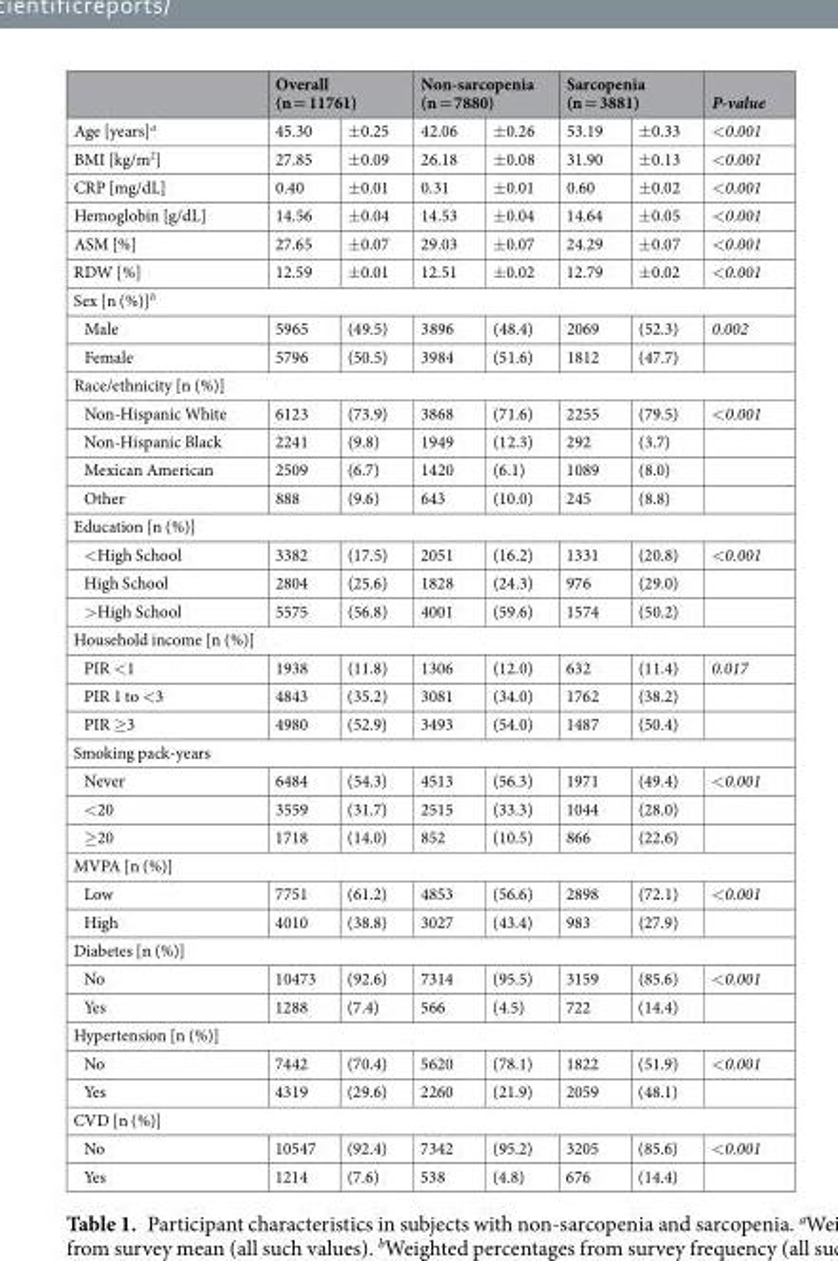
<table><thead><tr><td rowspan="2">Age [years]<sup>a</sup></td><td colspan="2">Overall (n = 11761)</td><td colspan="2">Non-sarcopenia (n = 7880)</td><td colspan="2">Sarcopenia (n = 3881)</td><td rowspan="2">P-value &lt;0.001</td></tr><tr><td>45.30</td><td>±0.25</td><td>42.06</td><td>±0.26</td><td>53.19</td><td>±0.33</td></tr></thead><tbody><tr><td>BMI [kg/m<sup>2</sup>]</td><td>27.85</td><td>±0.09</td><td>26.18</td><td>±0.08</td><td>31.90</td><td>±0.13</td><td>&lt;0.001</td></tr><tr><td>CRP [mg/dL]</td><td>0.40</td><td>±0.01</td><td>0.31</td><td>±0.01</td><td>0.60</td><td>±0.02</td><td>&lt;0.001</td></tr><tr><td>Hemoglobin [g/dL]</td><td>14.56</td><td>±0.04</td><td>14.53</td><td>±0.04</td><td>14.64</td><td>±0.05</td><td>&lt;0.001</td></tr><tr><td>ASM [%]</td><td>27.65</td><td>±0.07</td><td>29.03</td><td>±0.07</td><td>24.29</td><td>±0.07</td><td>&lt;0.001</td></tr><tr><td>RDW [%]</td><td>12.59</td><td>±0.01</td><td>12.51</td><td>±0.02</td><td>12.79</td><td>±0.02</td><td>&lt;0.001</td></tr><tr><td colspan="8">Sex [n (%)]<sup>b</sup></td></tr><tr><td>Male</td><td>5965</td><td>(49.5)</td><td>3896</td><td>(48.4)</td><td>2069</td><td>(52.3)</td><td>0.002</td></tr><tr><td>Female</td><td>5796</td><td>(50.5)</td><td>3984</td><td>(51.6)</td><td>1812</td><td>(47.7)</td><td></td></tr><tr><td colspan="8">Race/ethnicity [n (%)]</td></tr><tr><td>Non-Hispanic White</td><td>6123</td><td>(73.9)</td><td>3868</td><td>(71.6)</td><td>2255</td><td>(79.5)</td><td>&lt;0.001</td></tr><tr><td>Non-Hispanic Black</td><td>2241</td><td>(9.8)</td><td>1949</td><td>(12.3)</td><td>292</td><td>(3.7)</td><td></td></tr><tr><td>Mexican American</td><td>2509</td><td>(6.7)</td><td>1420</td><td>(6.1)</td><td>1089</td><td>(8.0)</td><td></td></tr><tr><td>Other</td><td>888</td><td>(9.6)</td><td>643</td><td>(10.0)</td><td>245</td><td>(8.8)</td><td></td></tr><tr><td colspan="8">Education [n (%)]</td></tr><tr><td>&lt;High School</td><td>3382</td><td>(17.5)</td><td>2051</td><td>(16.2)</td><td>1331</td><td>(20.8)</td><td>&lt;0.001</td></tr><tr><td>High School</td><td>2804</td><td>(25.6)</td><td>1828</td><td>(24.3)</td><td>976</td><td>(29.0)</td><td></td></tr><tr><td>&gt;High School</td><td>5575</td><td>(56.8)</td><td>4001</td><td>(59.6)</td><td>1574</td><td>(50.2)</td><td></td></tr><tr><td colspan="8">Household income [n (%)]</td></tr><tr><td>PIR &lt;1</td><td>1938</td><td>(11.8)</td><td>1306</td><td>(12.0)</td><td>632</td><td>(11.4)</td><td>0.017</td></tr><tr><td>PIR 1 to &lt;3</td><td>4843</td><td>(35.2)</td><td>3081</td><td>(34.0)</td><td>1762</td><td>(38.2)</td><td></td></tr><tr><td>PIR ≥3</td><td>4980</td><td>(52.9)</td><td>3493</td><td>(54.0)</td><td>1487</td><td>(50.4)</td><td></td></tr><tr><td colspan="8">Smoking pack-years</td></tr><tr><td>Never</td><td>6484</td><td>(54.3)</td><td>4513</td><td>(56.3)</td><td>1971</td><td>(49.4)</td><td>&lt;0.001</td></tr><tr><td>&lt;20</td><td>3559</td><td>(31.7)</td><td>2515</td><td>(33.3)</td><td>1044</td><td>(28.0)</td><td></td></tr><tr><td>≥20</td><td>1718</td><td>(14.0)</td><td>852</td><td>(10.5)</td><td>866</td><td>(22.6)</td><td></td></tr><tr><td colspan="8">MVPA [n (%)]</td></tr><tr><td>Low</td><td>7751</td><td>(61.2)</td><td>4853</td><td>(56.6)</td><td>2898</td><td>(72.1)</td><td>&lt;0.001</td></tr><tr><td>High</td><td>4010</td><td>(38.8)</td><td>3027</td><td>(43.4)</td><td>983</td><td>(27.9)</td><td></td></tr><tr><td colspan="8">Diabetes [n (%)]</td></tr><tr><td>No</td><td>10473</td><td>(92.6)</td><td>7314</td><td>(95.5)</td><td>3159</td><td>(85.6)</td><td>&lt;0.001</td></tr><tr><td>Yes</td><td>1288</td><td>(7.4)</td><td>566</td><td>(4.5)</td><td>722</td><td>(14.4)</td><td></td></tr><tr><td colspan="8">Hypertension [n (%)]</td></tr><tr><td>No</td><td>7442</td><td>(70.4)</td><td>5620</td><td>(78.1)</td><td>1822</td><td>(51.9)</td><td>&lt;0.001</td></tr><tr><td>Yes</td><td>4319</td><td>(29.6)</td><td>2260</td><td>(21.9)</td><td>2059</td><td>(48.1)</td><td></td></tr><tr><td colspan="8">CVD [n (%)]</td></tr><tr><td>No</td><td>10547</td><td>(92.4)</td><td>7342</td><td>(95.2)</td><td>3205</td><td>(85.6)</td><td>&lt;0.001</td></tr><tr><td>Yes</td><td>1214</td><td>(7.6)</td><td>538</td><td>(4.8)</td><td>676</td><td>(14.4)</td><td></td></tr></tbody></table>